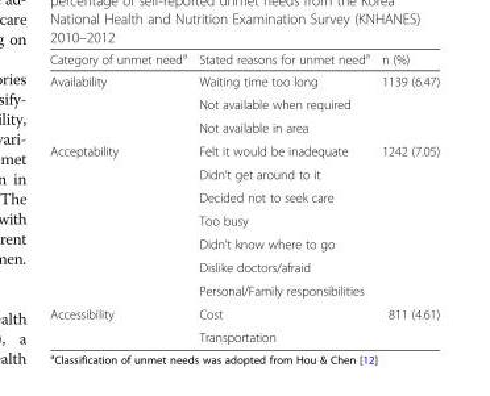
<table><thead><tr><td>Category of unmet need<sup>a</sup></td><td>Stated reasons for unmet need<sup>a</sup></td><td>n (%)</td></tr></thead><tbody><tr><td rowspan="3">Availability</td><td>Waiting time too long</td><td rowspan="3">1139 (6.47)</td></tr><tr><td>Not available when required</td></tr><tr><td>Not available in area</td></tr><tr><td rowspan="7">Acceptability</td><td>Felt it would be inadequate</td><td rowspan="7">1242 (7.05)</td></tr><tr><td>Didn’t get around to it</td></tr><tr><td>Decided not to seek care</td></tr><tr><td>Too busy</td></tr><tr><td>Didn’t know where to go</td></tr><tr><td>Dislike doctors/afraid</td></tr><tr><td>Personal/Family responsibilities</td></tr><tr><td rowspan="2">Accessibility</td><td>Cost</td><td rowspan="2">811 (4.61)</td></tr><tr><td>Transportation</td></tr></tbody></table>